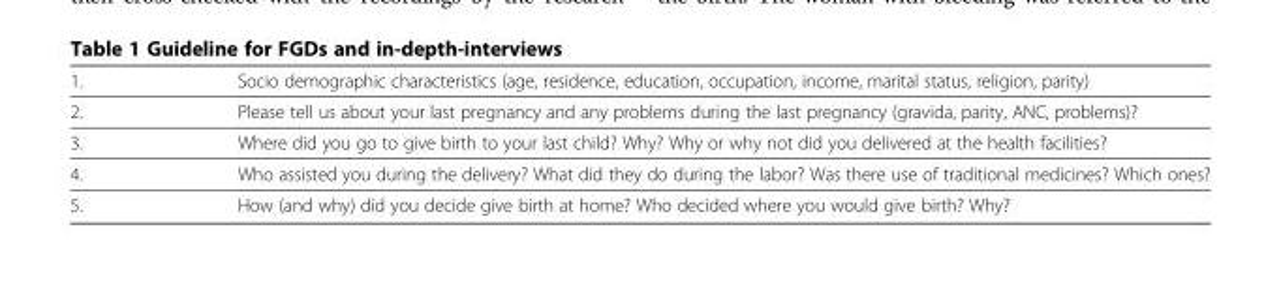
<table><thead><tr><td>1.</td><td>Socio demographic characteristics (age, residence, education, occupation, income, marital status, religion, parity)</td></tr></thead><tbody><tr><td>2.</td><td>Please tell us about your last pregnancy and any problems during the last pregnancy (gravida, parity, ANC, problems)?</td></tr><tr><td>3.</td><td>Where did you go to give birth to your last child? Why? Why or why not did you delivered at the health facilities?</td></tr><tr><td>4.</td><td>Who assisted you during the delivery? What did they do during the labor? Was there use of traditional medicines? Which ones?</td></tr><tr><td>5.</td><td>How (and why) did you decide give birth at home? Who decided where you would give birth? Why?</td></tr></tbody></table>